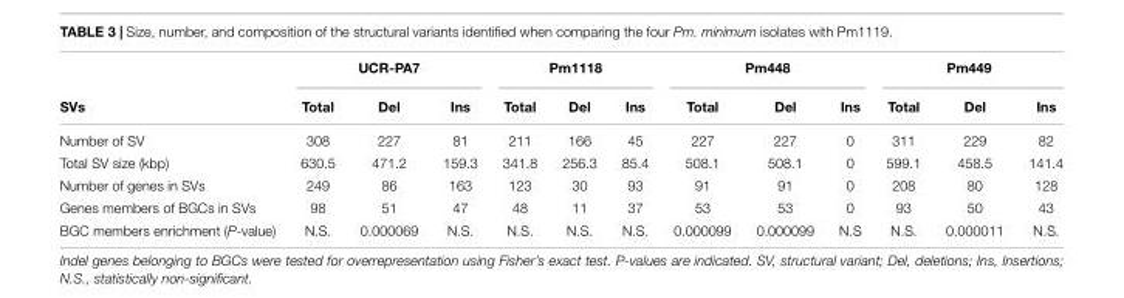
<table><thead><tr><td rowspan="2">SVs</td><td colspan="3">UCR-PA7</td><td colspan="3">Pm1118</td><td colspan="3">Pm448</td><td colspan="3">Pm449</td></tr><tr><td>Total</td><td>Del</td><td>Ins</td><td>Total</td><td>Del</td><td>Ins</td><td>Total</td><td>Del</td><td>Ins</td><td>Total</td><td>Del</td><td>Ins</td></tr></thead><tbody><tr><td>Number of SV</td><td>308</td><td>227</td><td>81</td><td>211</td><td>166</td><td>45</td><td>227</td><td>227</td><td>0</td><td>311</td><td>229</td><td>82</td></tr><tr><td>Total SV size (kbp)</td><td>630.5</td><td>471.2</td><td>159.3</td><td>341.8</td><td>256.3</td><td>85.4</td><td>508.1</td><td>508.1</td><td>0</td><td>599.1</td><td>458.5</td><td>141.4</td></tr><tr><td>Number of genes in SVs</td><td>249</td><td>86</td><td>163</td><td>123</td><td>30</td><td>93</td><td>91</td><td>91</td><td>0</td><td>208</td><td>80</td><td>128</td></tr><tr><td>Genes members of BGCs in SVs</td><td>98</td><td>51</td><td>47</td><td>48</td><td>11</td><td>37</td><td>53</td><td>53</td><td>0</td><td>93</td><td>50</td><td>43</td></tr><tr><td>BGC members enrichment (P-value)</td><td>N.S.</td><td>0.000069</td><td>N.S.</td><td>N.S.</td><td>N.S.</td><td>N.S.</td><td>0.000099</td><td>0.000099</td><td>N.S</td><td>N.S.</td><td>0.000011</td><td>N.S.</td></tr></tbody></table>